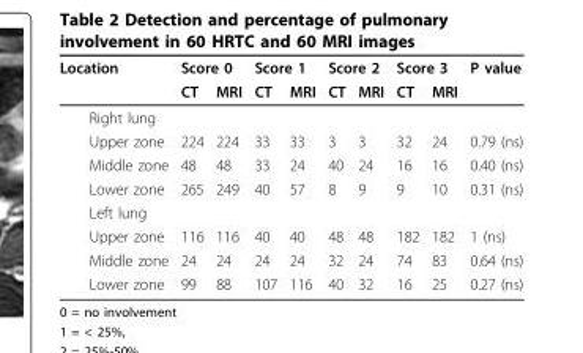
<table><thead><tr><td rowspan="2">Location</td><td colspan="2">Score 0</td><td colspan="2">Score 1</td><td colspan="2">Score 2</td><td colspan="2">Score 3</td><td rowspan="2">P value</td></tr><tr><td>CT</td><td>MRI</td><td>CT</td><td>MRI</td><td>CT</td><td>MRI</td><td>CT</td><td>MRI</td></tr></thead><tbody><tr><td colspan="10">Right lung</td></tr><tr><td>Upper zone</td><td>224</td><td>224</td><td>33</td><td>33</td><td>3</td><td>3</td><td>32</td><td>24</td><td>0.79 (ns)</td></tr><tr><td>Middle zone</td><td>48</td><td>48</td><td>33</td><td>24</td><td>40</td><td>24</td><td>16</td><td>16</td><td>0.40 (ns)</td></tr><tr><td>Lower zone</td><td>265</td><td>249</td><td>40</td><td>57</td><td>8</td><td>9</td><td>9</td><td>10</td><td>0.31 (ns)</td></tr><tr><td colspan="10">Left lung</td></tr><tr><td>Upper zone</td><td>116</td><td>116</td><td>40</td><td>40</td><td>48</td><td>48</td><td>182</td><td>182</td><td>1 (ns)</td></tr><tr><td>Middle zone</td><td>24</td><td>24</td><td>24</td><td>24</td><td>32</td><td>24</td><td>74</td><td>83</td><td>0.64 (ns)</td></tr><tr><td>Lower zone</td><td>99</td><td>88</td><td>107</td><td>116</td><td>40</td><td>32</td><td>16</td><td>25</td><td>0.27 (ns)</td></tr></tbody></table>